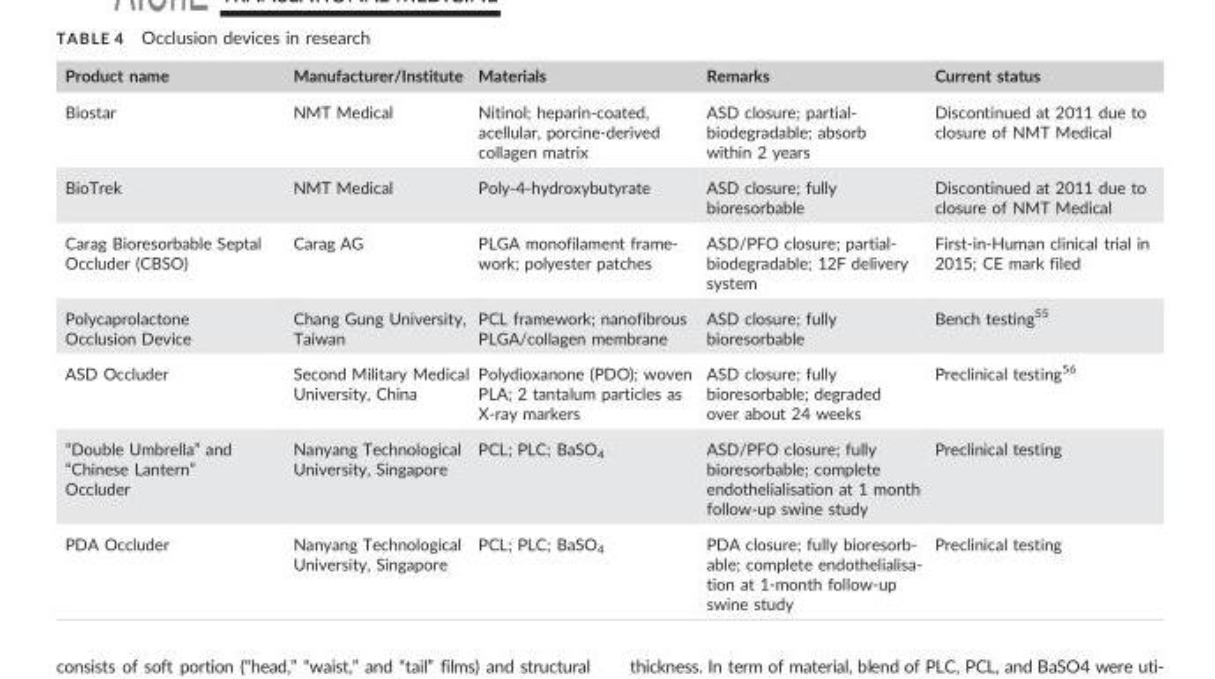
<table><thead><tr><td>Product name</td><td>Manufacturer/Institute</td><td>Materials</td><td>Remarks</td><td>Current status</td></tr></thead><tbody><tr><td>Biostar</td><td>NMT Medical</td><td>Nitinol; heparin-coated, acellular, porcine-derived collagen matrix</td><td>ASD closure; partial- biodegradable; absorb within 2 years</td><td>Discontinued at 2011 due to closure of NMT Medical</td></tr><tr><td>BioTrek</td><td>NMT Medical</td><td>Poly-4-hydroxybutyrate</td><td>ASD closure; fully bioresorbable</td><td>Discontinued at 2011 due to closure of NMT Medical</td></tr><tr><td>Carag Bioresorbable Septal Occluder (CBSO)</td><td>Carag AG</td><td>PLGA monofilament frame- work; polyester patches</td><td>ASD/PFO closure; partial- biodegradable; 12F delivery system</td><td>First-in-Human clinical trial in 2015; CE mark filed</td></tr><tr><td>Polycaprolactone Occlusion Device</td><td>Chang Gung University, Taiwan</td><td>PCL framework; nanofibrous PLGA/collagen membrane</td><td>ASD closure; fully bioresorbable</td><td>Bench testing<sup>55</sup></td></tr><tr><td>ASD Occluder</td><td>Second Military Medical University, China</td><td>Polydioxanone (PDO); woven PLA; 2 tantalum particles as X-ray markers</td><td>ASD closure; fully bioresorbable; degraded over about 24 weeks</td><td>Preclinical testing<sup>56</sup></td></tr><tr><td>“Double Umbrella” and “Chinese Lantern” Occluder</td><td>Nanyang Technological University, Singapore</td><td>PCL; PLC; BaSO<sub>4</sub></td><td>ASD/PFO closure; fully bioresorbable; complete endothelialisation at 1 month follow-up swine study</td><td>Preclinical testing</td></tr><tr><td>PDA Occluder</td><td>Nanyang Technological University, Singapore</td><td>PCL; PLC; BaSO<sub>4</sub></td><td>PDA closure; fully bioresorb- able; complete endothelialisa- tion at 1-month follow-up swine study</td><td>Preclinical testing</td></tr></tbody></table>